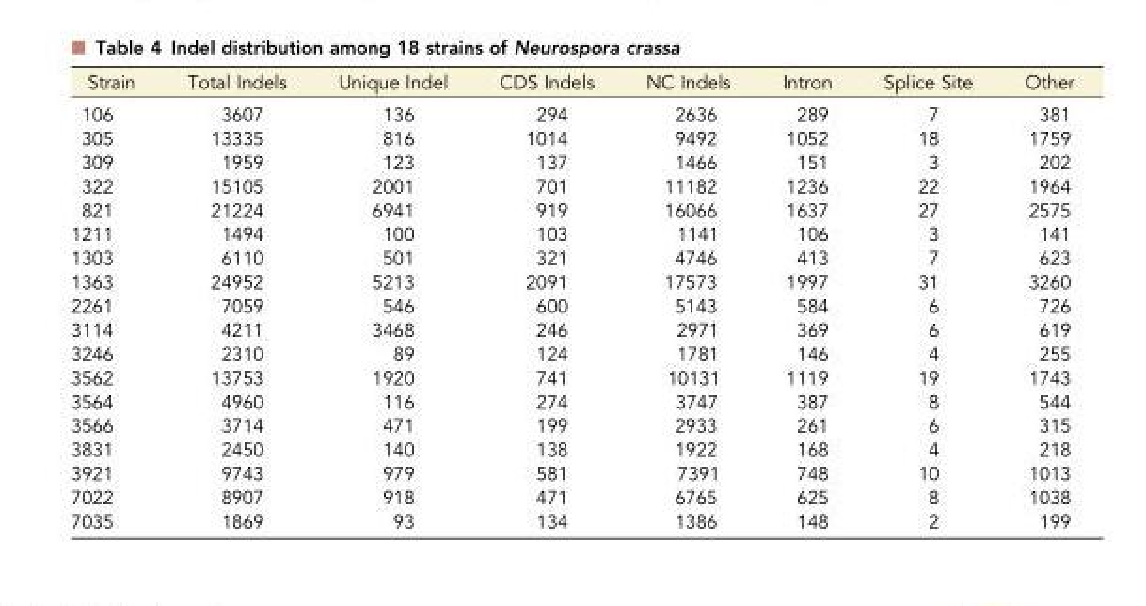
<table><thead><tr><td>Strain</td><td>Total Indels</td><td>Unique Indel</td><td>CDS Indels</td><td>NC Indels</td><td>Intron</td><td>Splice Site</td><td>Other</td></tr></thead><tbody><tr><td>106</td><td>3607</td><td>136</td><td>294</td><td>2636</td><td>289</td><td>7</td><td>381</td></tr><tr><td>305</td><td>13335</td><td>816</td><td>1014</td><td>9492</td><td>1052</td><td>18</td><td>1759</td></tr><tr><td>309</td><td>1959</td><td>123</td><td>137</td><td>1466</td><td>151</td><td>3</td><td>202</td></tr><tr><td>322</td><td>15105</td><td>2001</td><td>701</td><td>11182</td><td>1236</td><td>22</td><td>1964</td></tr><tr><td>821</td><td>21224</td><td>6941</td><td>919</td><td>16066</td><td>1637</td><td>27</td><td>2575</td></tr><tr><td>1211</td><td>1494</td><td>100</td><td>103</td><td>1141</td><td>106</td><td>3</td><td>141</td></tr><tr><td>1303</td><td>6110</td><td>501</td><td>321</td><td>4746</td><td>413</td><td>7</td><td>623</td></tr><tr><td>1363</td><td>24952</td><td>5213</td><td>2091</td><td>17573</td><td>1997</td><td>31</td><td>3260</td></tr><tr><td>2261</td><td>7059</td><td>546</td><td>600</td><td>5143</td><td>584</td><td>6</td><td>726</td></tr><tr><td>3114</td><td>4211</td><td>3468</td><td>246</td><td>2971</td><td>369</td><td>6</td><td>619</td></tr><tr><td>3246</td><td>2310</td><td>89</td><td>124</td><td>1781</td><td>146</td><td>4</td><td>255</td></tr><tr><td>3562</td><td>13753</td><td>1920</td><td>741</td><td>10131</td><td>1119</td><td>19</td><td>1743</td></tr><tr><td>3564</td><td>4960</td><td>116</td><td>274</td><td>3747</td><td>387</td><td>8</td><td>544</td></tr><tr><td>3566</td><td>3714</td><td>471</td><td>199</td><td>2933</td><td>261</td><td>6</td><td>315</td></tr><tr><td>3831</td><td>2450</td><td>140</td><td>138</td><td>1922</td><td>168</td><td>4</td><td>218</td></tr><tr><td>3921</td><td>9743</td><td>979</td><td>581</td><td>7391</td><td>748</td><td>10</td><td>1013</td></tr><tr><td>7022</td><td>8907</td><td>918</td><td>471</td><td>6765</td><td>625</td><td>8</td><td>1038</td></tr><tr><td>7035</td><td>1869</td><td>93</td><td>134</td><td>1386</td><td>148</td><td>2</td><td>199</td></tr></tbody></table>